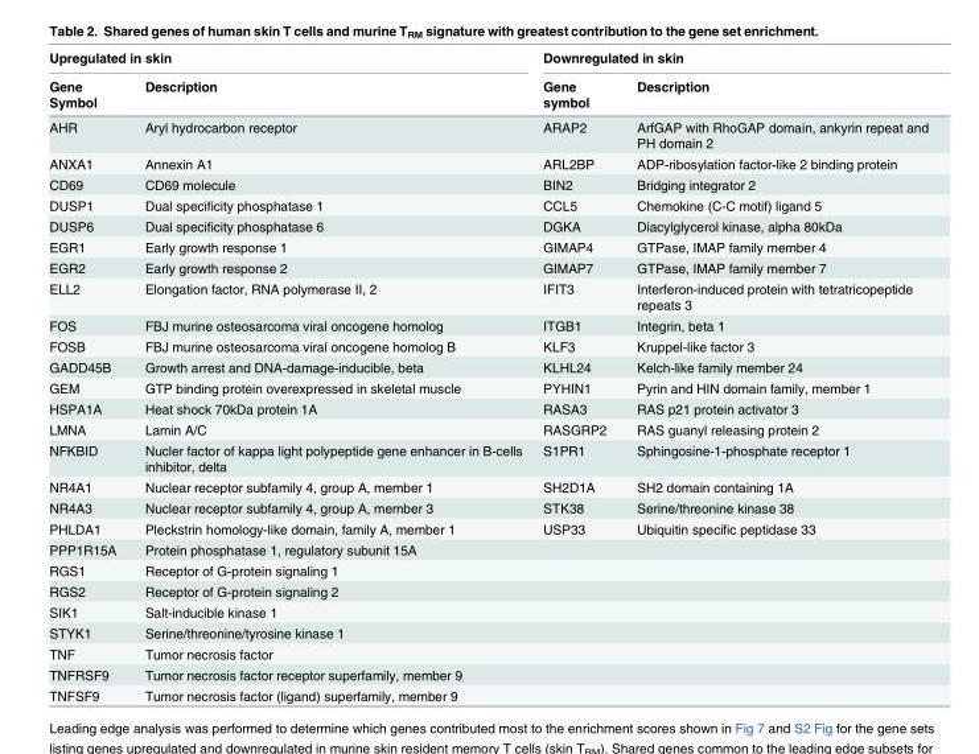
<table><thead><tr><td colspan="2">Upregulated in skin</td><td colspan="2">Downregulated in skin</td></tr><tr><td>Gene Symbol</td><td>Description</td><td>Gene symbol</td><td>Description</td></tr></thead><tbody><tr><td>AHR</td><td>Aryl hydrocarbon receptor</td><td>ARAP2</td><td>ArfGAP with RhoGAP domain, ankyrin repeat and PH domain 2</td></tr><tr><td>ANXA1</td><td>Annexin A1</td><td>ARL2BP</td><td>ADP-ribosylation factor-like 2 binding protein</td></tr><tr><td>CD69</td><td>CD69 molecule</td><td>BIN2</td><td>Bridging integrator 2</td></tr><tr><td>DUSP1</td><td>Dual specificity phosphatase 1</td><td>CCL5</td><td>Chemokine (C-C motif) ligand 5</td></tr><tr><td>DUSP6</td><td>Dual specificity phosphatase 6</td><td>DGKA</td><td>Diacylglycerol kinase, alpha 80kDa</td></tr><tr><td>EGR1</td><td>Early growth response 1</td><td>GIMAP4</td><td>GTPase, IMAP family member 4</td></tr><tr><td>EGR2</td><td>Early growth response 2</td><td>GIMAP7</td><td>GTPase, IMAP family member 7</td></tr><tr><td>ELL2</td><td>Elongation factor, RNA polymerase II, 2</td><td>IFIT3</td><td>Interferon-induced protein with tetratricopeptide repeats 3</td></tr><tr><td>FOS</td><td>FBJ murine osteosarcoma viral oncogene homolog</td><td>ITGB1</td><td>Integrin, beta 1</td></tr><tr><td>FOSB</td><td>FBJ murine osteosarcoma viral oncogene homolog B</td><td>KLF3</td><td>Kruppel-like factor 3</td></tr><tr><td>GADD45B</td><td>Growth arrest and DNA-damage-inducible, beta</td><td>KLHL24</td><td>Kelch-like family member 24</td></tr><tr><td>GEM</td><td>GTP binding protein overexpressed in skeletal muscle</td><td>PYHIN1</td><td>Pyrin and HIN domain family, member 1</td></tr><tr><td>HSPA1A</td><td>Heat shock 70kDa protein 1A</td><td>RASA3</td><td>RAS p21 protein activator 3</td></tr><tr><td>LMNA</td><td>Lamin A/C</td><td>RASGRP2</td><td>RAS guanyl releasing protein 2</td></tr><tr><td>NFKBID</td><td>Nucler factor of kappa light polypeptide gene enhancer in B-cells inhibitor, delta</td><td>S1PR1</td><td>Sphingosine-1-phosphate receptor 1</td></tr><tr><td>NR4A1</td><td>Nuclear receptor subfamily 4, group A, member 1</td><td>SH2D1A</td><td>SH2 domain containing 1A</td></tr><tr><td>NR4A3</td><td>Nuclear receptor subfamily 4, group A, member 3</td><td>STK38</td><td>Serine/threonine kinase 38</td></tr><tr><td>PHLDA1</td><td>Pleckstrin homology-like domain, family A, member 1</td><td>USP33</td><td>Ubiquitin specific peptidase 33</td></tr><tr><td>PPP1R15A</td><td>Protein phosphatase 1, regulatory subunit 15A</td><td></td><td></td></tr><tr><td>RGS1</td><td>Receptor of G-protein signaling 1</td><td></td><td></td></tr><tr><td>RGS2</td><td>Receptor of G-protein signaling 2</td><td></td><td></td></tr><tr><td>SIK1</td><td>Salt-inducible kinase 1</td><td></td><td></td></tr><tr><td>STYK1</td><td>Serine/threonine/tyrosine kinase 1</td><td></td><td></td></tr><tr><td>TNF</td><td>Tumor necrosis factor</td><td></td><td></td></tr><tr><td>TNFRSF9</td><td>Tumor necrosis factor receptor superfamily, member 9</td><td></td><td></td></tr><tr><td>TNFSF9</td><td>Tumor necrosis factor (ligand) superfamily, member 9</td><td></td><td></td></tr></tbody></table>